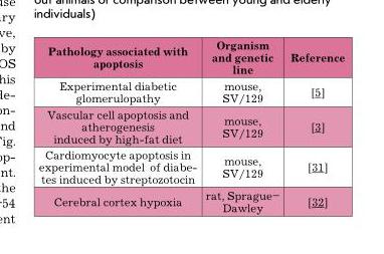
<table><thead><tr><td>Pathology associated with apoptosis</td><td>Organism and genetic line</td><td>Reference</td></tr></thead><tbody><tr><td>Experimental diabetic glomerulopathy</td><td>mouse, SV/129</td><td>[5]</td></tr><tr><td>Vascular cell apoptosis and atherogenesis induced by high-fat diet</td><td>mouse, SV/129</td><td>[3]</td></tr><tr><td>Cardiomyocyte apoptosis in experimental model of diabe- tes induced by streptozotocin</td><td>mouse, SV/129</td><td>[31]</td></tr><tr><td>Cerebral cortex hypoxia</td><td>rat, Sprague– Dawley</td><td>[32]</td></tr></tbody></table>